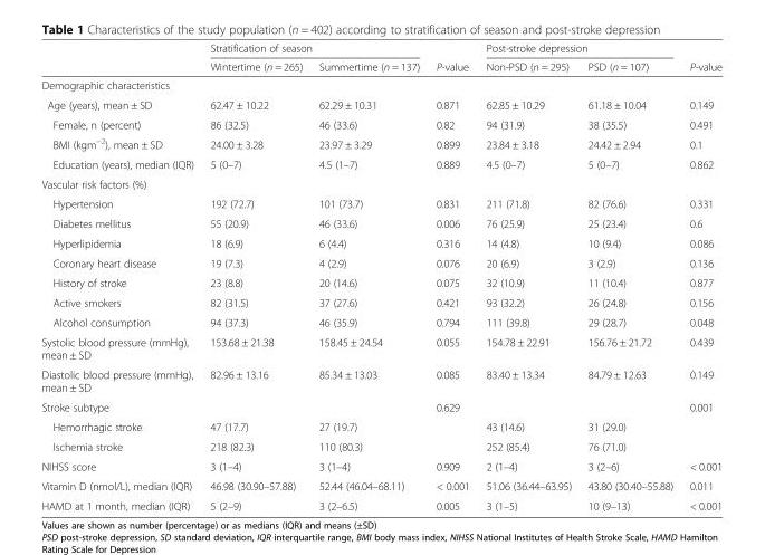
<table><thead><tr><td rowspan="2"></td><td colspan="2">Stratification of season</td><td rowspan="2">P-value</td><td colspan="2">Post-stroke depression</td><td rowspan="2">P-value</td></tr><tr><td>Wintertime (n = 265)</td><td>Summertime (n = 137)</td><td>Non-PSD (n = 295)</td><td>PSD (n = 107)</td></tr></thead><tbody><tr><td colspan="7">Demographic characteristics</td></tr><tr><td>Age (years), mean ± SD</td><td>62.47 ± 10.22</td><td>62.29 ± 10.31</td><td>0.871</td><td>62.85 ± 10.29</td><td>61.18 ± 10.04</td><td>0.149</td></tr><tr><td>Female, n (percent)</td><td>86 (32.5)</td><td>46 (33.6)</td><td>0.82</td><td>94 (31.9)</td><td>38 (35.5)</td><td>0.491</td></tr><tr><td>BMI (kgm<sup>−2</sup>), mean ± SD</td><td>24.00 ± 3.28</td><td>23.97 ± 3.29</td><td>0.899</td><td>23.84 ± 3.18</td><td>24.42 ± 2.94</td><td>0.1</td></tr><tr><td>Education (years), median (IQR)</td><td>5 (0–7)</td><td>4.5 (1–7)</td><td>0.889</td><td>4.5 (0–7)</td><td>5 (0–7)</td><td>0.862</td></tr><tr><td colspan="7">Vascular risk factors (%)</td></tr><tr><td>Hypertension</td><td>192 (72.7)</td><td>101 (73.7)</td><td>0.831</td><td>211 (71.8)</td><td>82 (76.6)</td><td>0.331</td></tr><tr><td>Diabetes mellitus</td><td>55 (20.9)</td><td>46 (33.6)</td><td>0.006</td><td>76 (25.9)</td><td>25 (23.4)</td><td>0.6</td></tr><tr><td>Hyperlipidemia</td><td>18 (6.9)</td><td>6 (4.4)</td><td>0.316</td><td>14 (4.8)</td><td>10 (9.4)</td><td>0.086</td></tr><tr><td>Coronary heart disease</td><td>19 (7.3)</td><td>4 (2.9)</td><td>0.076</td><td>20 (6.9)</td><td>3 (2.9)</td><td>0.136</td></tr><tr><td>History of stroke</td><td>23 (8.8)</td><td>20 (14.6)</td><td>0.075</td><td>32 (10.9)</td><td>11 (10.4)</td><td>0.877</td></tr><tr><td>Active smokers</td><td>82 (31.5)</td><td>37 (27.6)</td><td>0.421</td><td>93 (32.2)</td><td>26 (24.8)</td><td>0.156</td></tr><tr><td>Alcohol consumption</td><td>94 (37.3)</td><td>46 (35.9)</td><td>0.794</td><td>111 (39.8)</td><td>29 (28.7)</td><td>0.048</td></tr><tr><td>Systolic blood pressure (mmHg), mean ± SD</td><td>153.68 ± 21.38</td><td>158.45 ± 24.54</td><td>0.055</td><td>154.78 ± 22.91</td><td>156.76 ± 21.72</td><td>0.439</td></tr><tr><td>Diastolic blood pressure (mmHg), mean ± SD</td><td>82.96 ± 13.16</td><td>85.34 ± 13.03</td><td>0.085</td><td>83.40 ± 13.34</td><td>84.79 ± 12.63</td><td>0.149</td></tr><tr><td>Stroke subtype</td><td></td><td></td><td>0.629</td><td></td><td></td><td>0.001</td></tr><tr><td>Hemorrhagic stroke</td><td>47 (17.7)</td><td>27 (19.7)</td><td></td><td>43 (14.6)</td><td>31 (29.0)</td><td></td></tr><tr><td>Ischemia stroke</td><td>218 (82.3)</td><td>110 (80.3)</td><td></td><td>252 (85.4)</td><td>76 (71.0)</td><td></td></tr><tr><td>NIHSS score</td><td>3 (1–4)</td><td>3 (1–4)</td><td>0.909</td><td>2 (1–4)</td><td>3 (2–6)</td><td>&lt; 0.001</td></tr><tr><td>Vitamin D (nmol/L), median (IQR)</td><td>46.98 (30.90–57.88)</td><td>52.44 (46.04–68.11)</td><td>&lt; 0.001</td><td>51.06 (36.44–63.95)</td><td>43.80 (30.40–55.88)</td><td>0.011</td></tr><tr><td>HAMD at 1 month, median (IQR)</td><td>5 (2–9)</td><td>3 (2–6.5)</td><td>0.005</td><td>3 (1–5)</td><td>10 (9–13)</td><td>&lt; 0.001</td></tr></tbody></table>